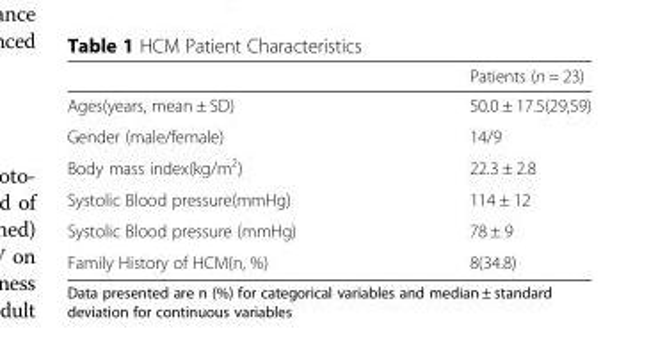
<table><thead><tr><td></td><td>Patients (n = 23)</td></tr></thead><tbody><tr><td>Ages(years, mean ± SD)</td><td>50.0 ± 17.5(29,59)</td></tr><tr><td>Gender (male/female)</td><td>14/9</td></tr><tr><td>Body mass index(kg/m<sup>2</sup>)</td><td>22.3 ± 2.8</td></tr><tr><td>Systolic Blood pressure(mmHg)</td><td>114 ± 12</td></tr><tr><td>Systolic Blood pressure (mmHg)</td><td>78 ± 9</td></tr><tr><td>Family History of HCM(n, %)</td><td>8(34.8)</td></tr></tbody></table>